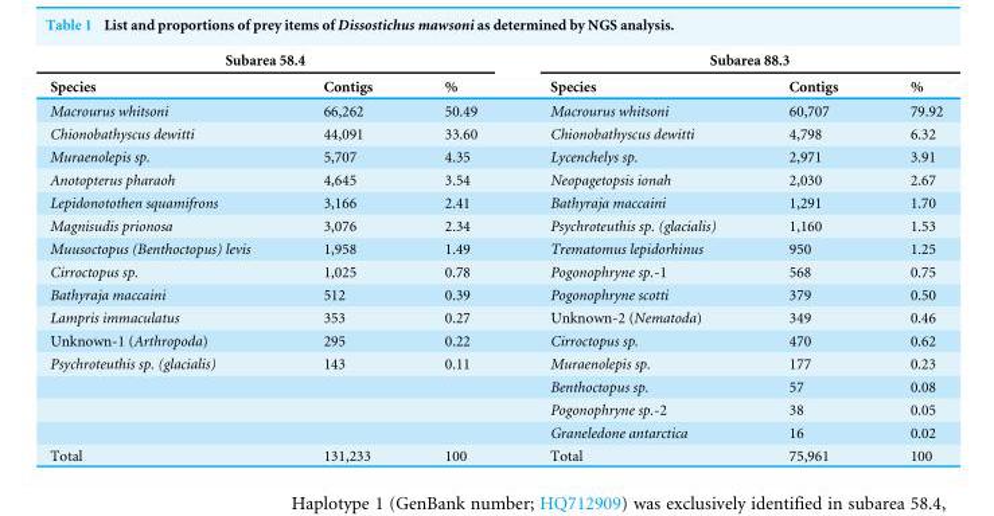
<table><thead><tr><td colspan="3">Subarea 58.4</td><td colspan="3">Subarea 88.3</td></tr><tr><td>Species</td><td>Contigs</td><td>%</td><td>Species</td><td>Contigs</td><td>%</td></tr></thead><tbody><tr><td>Macrourus whitsoni</td><td>66,262</td><td>50.49</td><td>Macrourus whitsoni</td><td>60,707</td><td>79.92</td></tr><tr><td>Chionobathyscus dewitti</td><td>44,091</td><td>33.60</td><td>Chionobathyscus dewitti</td><td>4,798</td><td>6.32</td></tr><tr><td>Muraenolepis sp.</td><td>5,707</td><td>4.35</td><td>Lycenchelys sp.</td><td>2,971</td><td>3.91</td></tr><tr><td>Anotopterus pharaoh</td><td>4,645</td><td>3.54</td><td>Neopagetopsis ionah</td><td>2,030</td><td>2.67</td></tr><tr><td>Lepidonotothen squamifrons</td><td>3,166</td><td>2.41</td><td>Bathyraja maccaini</td><td>1,291</td><td>1.70</td></tr><tr><td>Magnisudis prionosa</td><td>3,076</td><td>2.34</td><td>Psychroteuthis sp. (glacialis)</td><td>1,160</td><td>1.53</td></tr><tr><td>Muusoctopus (Benthoctopus) levis</td><td>1,958</td><td>1.49</td><td>Trematomus lepidorhinus</td><td>950</td><td>1.25</td></tr><tr><td>Cirroctopus sp.</td><td>1,025</td><td>0.78</td><td>Pogonophryne sp.-1</td><td>568</td><td>0.75</td></tr><tr><td>Bathyraja maccaini</td><td>512</td><td>0.39</td><td>Pogonophryne scotti</td><td>379</td><td>0.50</td></tr><tr><td>Lampris immaculatus</td><td>353</td><td>0.27</td><td>Unknown-2 (Nematoda)</td><td>349</td><td>0.46</td></tr><tr><td>Unknown-1 (Arthropoda)</td><td>295</td><td>0.22</td><td>Cirroctopus sp.</td><td>470</td><td>0.62</td></tr><tr><td rowspan="4">Psychroteuthis sp. (glacialis)</td><td>143</td><td>0.11</td><td>Muraenolepis sp.</td><td>177</td><td>0.23</td></tr><tr><td></td><td></td><td>Benthoctopus sp.</td><td>57</td><td>0.08</td></tr><tr><td></td><td></td><td>Pogonophryne sp.-2</td><td>38</td><td>0.05</td></tr><tr><td></td><td></td><td>Graneledone antarctica</td><td>16</td><td>0.02</td></tr><tr><td>Total</td><td>131,233</td><td>100</td><td>Total</td><td>75,961</td><td>100</td></tr></tbody></table>